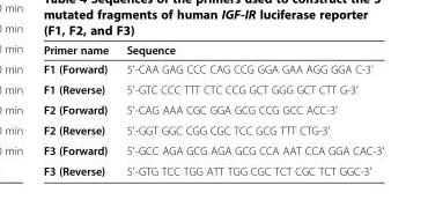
<table><thead><tr><td>Primer name</td><td>Sequence</td></tr></thead><tbody><tr><td>F1 (Forward)</td><td>5′-CAA GAG CCC CAG CCG GGA GAA AGG GGA C-3′</td></tr><tr><td>F1 (Reverse)</td><td>5′-GTC CCC TTT CTC CCG GCT GGG GCT CTT G-3′</td></tr><tr><td>F2 (Forward)</td><td>5′-CAG AAA CGC GGA GCG CCG GCC ACC-3′</td></tr><tr><td>F2 (Reverse)</td><td>5′-GGT GGC CGG CGC TCC GCG TTT CTG-3′</td></tr><tr><td>F3 (Forward)</td><td>5′-GCC AGA GCG AGA GCG CCA AAT CCA GGA CAC-3′</td></tr><tr><td>F3 (Reverse)</td><td>5′-GTG TCC TGG ATT TGG CGC TCT CGC TCT GGC-3′</td></tr></tbody></table>